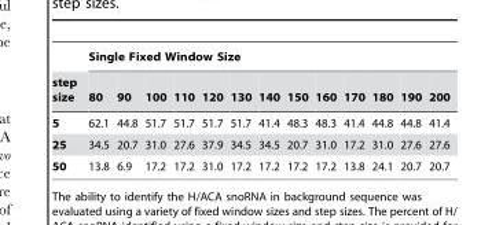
<table><thead><tr><td rowspan="2">step size</td><td colspan="13">Single Fixed Window Size</td></tr><tr><td>80</td><td>90</td><td>100</td><td>110</td><td>120</td><td>130</td><td>140</td><td>150</td><td>160</td><td>170</td><td>180</td><td>190</td><td>200</td></tr></thead><tbody><tr><td>5</td><td>62.1</td><td>44.8</td><td>51.7</td><td>51.7</td><td>51.7</td><td>51.7</td><td>41.4</td><td>48.3</td><td>48.3</td><td>41.4</td><td>44.8</td><td>44.8</td><td>41.4</td></tr><tr><td>25</td><td>34.5</td><td>20.7</td><td>31.0</td><td>27.6</td><td>37.9</td><td>34.5</td><td>34.5</td><td>20.7</td><td>31.0</td><td>17.2</td><td>31.0</td><td>27.6</td><td>27.6</td></tr><tr><td>50</td><td>13.8</td><td>6.9</td><td>17.2</td><td>17.2</td><td>31.0</td><td>17.2</td><td>17.2</td><td>17.2</td><td>17.2</td><td>13.8</td><td>24.1</td><td>20.7</td><td>20.7</td></tr></tbody></table>